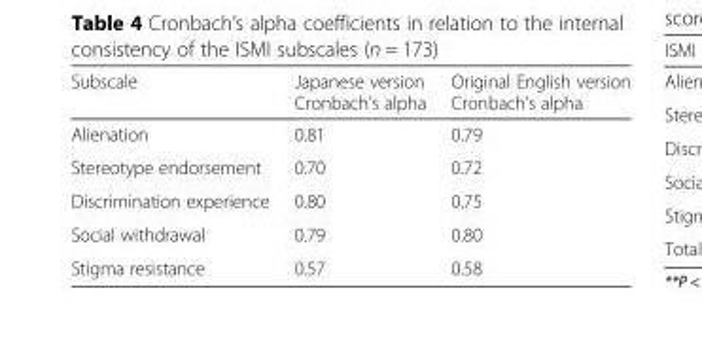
<table><thead><tr><td>Subscale</td><td>Japanese version Cronbach’s alpha</td><td>Original English version Cronbach’s alpha</td></tr></thead><tbody><tr><td>Alienation</td><td>0.81</td><td>0.79</td></tr><tr><td>Stereotype endorsement</td><td>0.70</td><td>0.72</td></tr><tr><td>Discrimination experience</td><td>0.80</td><td>0.75</td></tr><tr><td>Social withdrawal</td><td>0.79</td><td>0.80</td></tr><tr><td>Stigma resistance</td><td>0.57</td><td>0.58</td></tr></tbody></table>